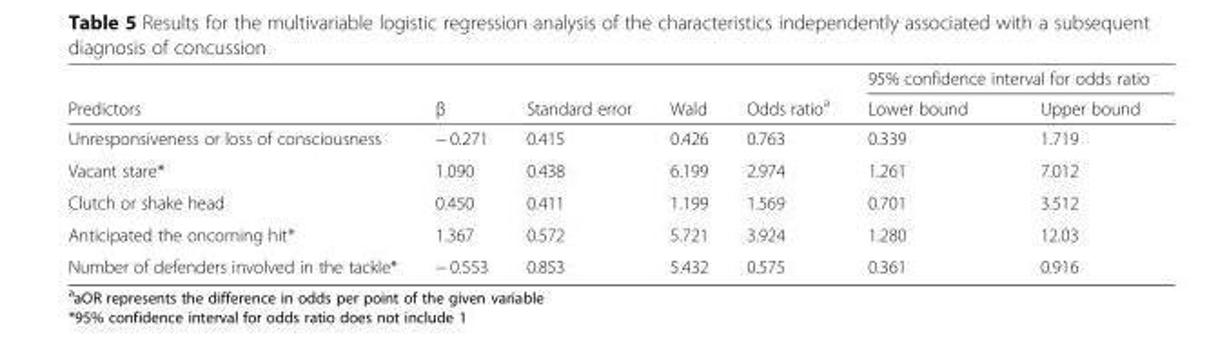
<table><thead><tr><td rowspan="2">Predictors</td><td rowspan="2">β</td><td rowspan="2">Standard error</td><td rowspan="2">Wald</td><td rowspan="2">Odds ratio<sup>a</sup></td><td colspan="2">95% confidence interval for odds ratio</td></tr><tr><td>Lower bound</td><td>Upper bound</td></tr></thead><tbody><tr><td>Unresponsiveness or loss of consciousness</td><td>− 0.271</td><td>0.415</td><td>0.426</td><td>0.763</td><td>0.339</td><td>1.719</td></tr><tr><td>Vacant stare*</td><td>1.090</td><td>0.438</td><td>6.199</td><td>2.974</td><td>1.261</td><td>7.012</td></tr><tr><td>Clutch or shake head</td><td>0.450</td><td>0.411</td><td>1.199</td><td>1.569</td><td>0.701</td><td>3.512</td></tr><tr><td>Anticipated the oncoming hit*</td><td>1.367</td><td>0.572</td><td>5.721</td><td>3.924</td><td>1.280</td><td>12.03</td></tr><tr><td>Number of defenders involved in the tackle*</td><td>− 0.553</td><td>0.853</td><td>5.432</td><td>0.575</td><td>0.361</td><td>0.916</td></tr></tbody></table>